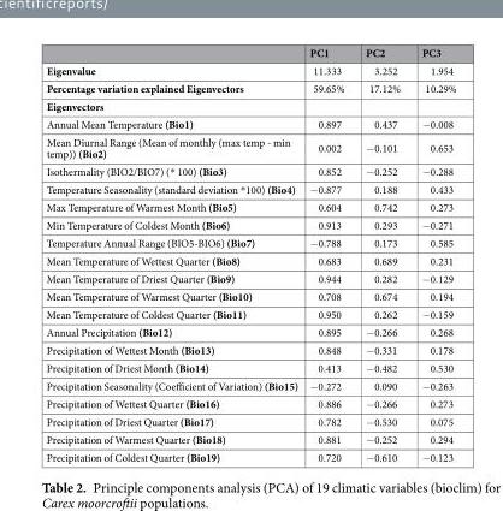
<table><thead><tr><td></td><td>PC1</td><td>PC2</td><td>PC3</td></tr></thead><tbody><tr><td>Eigenvalue</td><td>11.333</td><td>3.252</td><td>1.954</td></tr><tr><td>Percentage variation explained Eigenvectors</td><td>59.65%</td><td>17.12%</td><td>10.29%</td></tr><tr><td colspan="4">Eigenvectors</td></tr><tr><td>Annual Mean Temperature (Bio1)</td><td>0.897</td><td>0.437</td><td>−0.008</td></tr><tr><td>Mean Diurnal Range (Mean of monthly (max temp - min temp)) (Bio2)</td><td>0.002</td><td>−0.101</td><td>0.653</td></tr><tr><td>Isothermality (BIO2/BIO7) (* 100) (Bio3)</td><td>0.852</td><td>−0.252</td><td>−0.288</td></tr><tr><td>Temperature Seasonality (standard deviation *100) (Bio4)</td><td>−0.877</td><td>0.188</td><td>0.433</td></tr><tr><td>Max Temperature of Warmest Month (Bio5)</td><td>0.604</td><td>0.742</td><td>0.273</td></tr><tr><td>Min Temperature of Coldest Month (Bio6)</td><td>0.913</td><td>0.293</td><td>−0.271</td></tr><tr><td>Temperature Annual Range (BIO5-BIO6) (Bio7)</td><td>−0.788</td><td>0.173</td><td>0.585</td></tr><tr><td>Mean Temperature of Wettest Quarter (Bio8)</td><td>0.683</td><td>0.689</td><td>0.231</td></tr><tr><td>Mean Temperature of Driest Quarter (Bio9)</td><td>0.944</td><td>0.282</td><td>−0.129</td></tr><tr><td>Mean Temperature of Warmest Quarter (Bio10)</td><td>0.708</td><td>0.674</td><td>0.194</td></tr><tr><td>Mean Temperature of Coldest Quarter (Bio11)</td><td>0.950</td><td>0.262</td><td>−0.159</td></tr><tr><td>Annual Precipitation (Bio12)</td><td>0.895</td><td>−0.266</td><td>0.268</td></tr><tr><td>Precipitation of Wettest Month (Bio13)</td><td>0.848</td><td>−0.331</td><td>0.178</td></tr><tr><td>Precipitation of Driest Month (Bio14)</td><td>0.413</td><td>−0.482</td><td>0.530</td></tr><tr><td>Precipitation Seasonality (Coefficient of Variation) (Bio15)</td><td>−0.272</td><td>0.090</td><td>−0.263</td></tr><tr><td>Precipitation of Wettest Quarter (Bio16)</td><td>0.886</td><td>−0.266</td><td>0.273</td></tr><tr><td>Precipitation of Driest Quarter (Bio17)</td><td>0.782</td><td>−0.530</td><td>0.075</td></tr><tr><td>Precipitation of Warmest Quarter (Bio18)</td><td>0.881</td><td>−0.252</td><td>0.294</td></tr><tr><td>Precipitation of Coldest Quarter (Bio19)</td><td>0.720</td><td>−0.610</td><td>−0.123</td></tr></tbody></table>